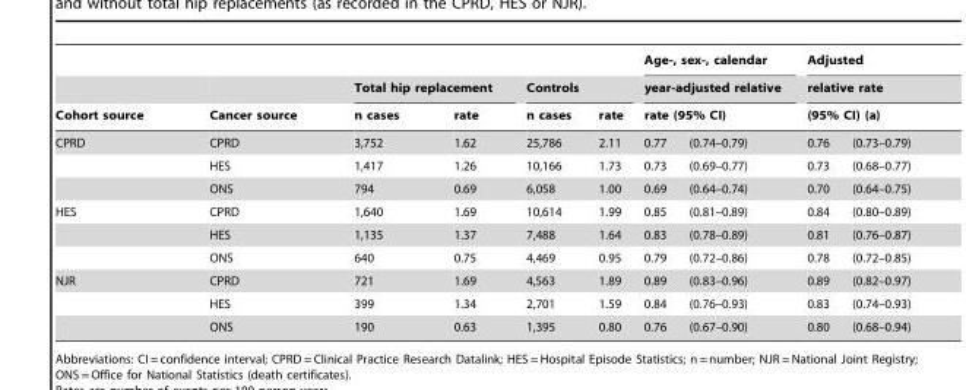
<table><thead><tr><td rowspan="4">Cohort source CPRD</td><td rowspan="4">Cancer source CPRD</td><td></td><td></td><td></td><td></td><td rowspan="3" colspan="2">Age-, sex-, calendar year-adjusted relative rate (95% CI)</td><td rowspan="3" colspan="2">Adjusted relative rate (95% CI) (a)</td></tr><tr><td colspan="2">Total hip replacement</td><td colspan="2">Controls</td></tr><tr><td rowspan="2">n cases 3,752</td><td rowspan="2">rate 1.62</td><td rowspan="2">n cases 25,786</td><td rowspan="2">rate 2.11</td></tr><tr><td>0.77</td><td>(0.74–0.79)</td><td>0.76</td><td>(0.73–0.79)</td></tr></thead><tbody><tr><td></td><td>HES</td><td>1,417</td><td>1.26</td><td>10,166</td><td>1.73</td><td>0.73</td><td>(0.69–0.77)</td><td>0.73</td><td>(0.68–0.77)</td></tr><tr><td></td><td>ONS</td><td>794</td><td>0.69</td><td>6,058</td><td>1.00</td><td>0.69</td><td>(0.64–0.74)</td><td>0.70</td><td>(0.64–0.75)</td></tr><tr><td rowspan="3">HES</td><td>CPRD</td><td>1,640</td><td>1.69</td><td>10,614</td><td>1.99</td><td>0.85</td><td>(0.81–0.89)</td><td>0.84</td><td>(0.80–0.89)</td></tr><tr><td>HES</td><td>1,135</td><td>1.37</td><td>7,488</td><td>1.64</td><td>0.83</td><td>(0.78–0.89)</td><td>0.81</td><td>(0.76–0.87)</td></tr><tr><td>ONS</td><td>640</td><td>0.75</td><td>4,469</td><td>0.95</td><td>0.79</td><td>(0.72–0.86)</td><td>0.78</td><td>(0.72–0.85)</td></tr><tr><td rowspan="3">NJR</td><td>CPRD</td><td>721</td><td>1.69</td><td>4,563</td><td>1.89</td><td>0.89</td><td>(0.83–0.96)</td><td>0.89</td><td>(0.82–0.97)</td></tr><tr><td>HES</td><td>399</td><td>1.34</td><td>2,701</td><td>1.59</td><td>0.84</td><td>(0.76–0.93)</td><td>0.83</td><td>(0.74–0.93)</td></tr><tr><td>ONS</td><td>190</td><td>0.63</td><td>1,395</td><td>0.80</td><td>0.76</td><td>(0.67–0.90)</td><td>0.80</td><td>(0.68–0.94)</td></tr></tbody></table>